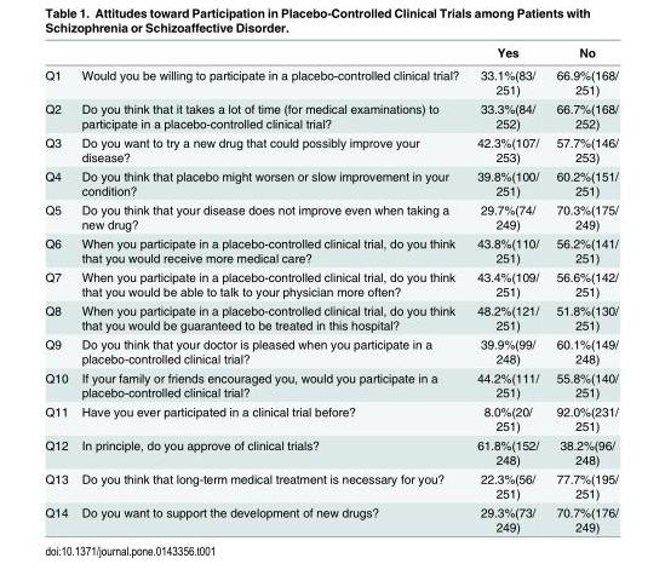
<table><thead><tr><td></td><td></td><td>Yes</td><td>No</td></tr></thead><tbody><tr><td>Q1</td><td>Would you be willing to participate in a placebo-controlled clinical trial?</td><td>33.1%(83/ 251)</td><td>66.9%(168/ 251)</td></tr><tr><td>Q2</td><td>Do you think that it takes a lot of time (for medical examinations) to participate in a placebo-controlled clinical trial?</td><td>33.3%(84/ 252)</td><td>66.7%(168/ 252)</td></tr><tr><td>Q3</td><td>Do you want to try a new drug that could possibly improve your disease?</td><td>42.3%(107/ 253)</td><td>57.7%(146/ 253)</td></tr><tr><td>Q4</td><td>Do you think that placebo might worsen or slow improvement in your condition?</td><td>39.8%(100/ 251)</td><td>60.2%(151/ 251)</td></tr><tr><td>Q5</td><td>Do you think that your disease does not improve even when taking a new drug?</td><td>29.7%(74/ 249)</td><td>70.3%(175/ 249)</td></tr><tr><td>Q6</td><td>When you participate in a placebo-controlled clinical trial, do you think that you would receive more medical care?</td><td>43.8%(110/ 251)</td><td>56.2%(141/ 251)</td></tr><tr><td>Q7</td><td>When you participate in a placebo-controlled clinical trial, do you think that you would be able to talk to your physician more often?</td><td>43.4%(109/ 251)</td><td>56.6%(142/ 251)</td></tr><tr><td>Q8</td><td>When you participate in a placebo-controlled clinical trial, do you think that you would be guaranteed to be treated in this hospital?</td><td>48.2%(121/ 251)</td><td>51.8%(130/ 251)</td></tr><tr><td>Q9</td><td>Do you think that your doctor is pleased when you participate in a placebo-controlled clinical trial?</td><td>39.9%(99/ 248)</td><td>60.1%(149/ 248)</td></tr><tr><td>Q10</td><td>If your family or friends encouraged you, would you participate in a placebo-controlled clinical trial?</td><td>44.2%(111/ 251)</td><td>55.8%(140/ 251)</td></tr><tr><td>Q11</td><td>Have you ever participated in a clinical trial before?</td><td>8.0%(20/ 251)</td><td>92.0%(231/ 251)</td></tr><tr><td>Q12</td><td>In principle, do you approve of clinical trials?</td><td>61.8%(152/ 248)</td><td>38.2%(96/ 248)</td></tr><tr><td>Q13</td><td>Do you think that long-term medical treatment is necessary for you?</td><td>22.3%(56/ 251)</td><td>77.7%(195/ 251)</td></tr><tr><td>Q14</td><td>Do you want to support the development of new drugs?</td><td>29.3%(73/ 249)</td><td>70.7%(176/ 249)</td></tr></tbody></table>